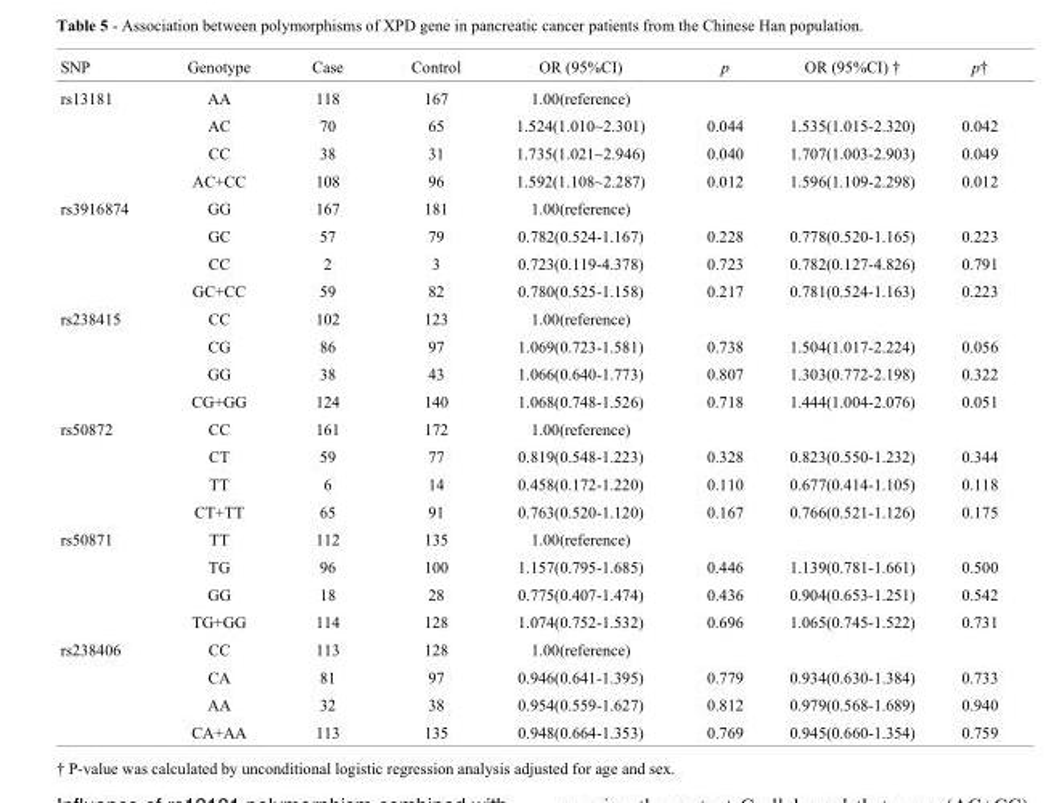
<table><thead><tr><td>SNP</td><td>Genotype</td><td>Case</td><td>Control</td><td>OR (95%CI)</td><td>p</td><td>OR (95%CI) †</td><td>p†</td></tr></thead><tbody><tr><td rowspan="4">rs13181</td><td>AA</td><td>118</td><td>167</td><td>1.00(reference)</td><td></td><td></td><td></td></tr><tr><td>AC</td><td>70</td><td>65</td><td>1.524(1.010~2.301)</td><td>0.044</td><td>1.535(1.015-2.320)</td><td>0.042</td></tr><tr><td>CC</td><td>38</td><td>31</td><td>1.735(1.021~2.946)</td><td>0.040</td><td>1.707(1.003-2.903)</td><td>0.049</td></tr><tr><td>AC+CC</td><td>108</td><td>96</td><td>1.592(1.108~2.287)</td><td>0.012</td><td>1.596(1.109-2.298)</td><td>0.012</td></tr><tr><td rowspan="4">rs3916874</td><td>GG</td><td>167</td><td>181</td><td>1.00(reference)</td><td></td><td></td><td></td></tr><tr><td>GC</td><td>57</td><td>79</td><td>0.782(0.524-1.167)</td><td>0.228</td><td>0.778(0.520-1.165)</td><td>0.223</td></tr><tr><td>CC</td><td>2</td><td>3</td><td>0.723(0.119-4.378)</td><td>0.723</td><td>0.782(0.127-4.826)</td><td>0.791</td></tr><tr><td>GC+CC</td><td>59</td><td>82</td><td>0.780(0.525-1.158)</td><td>0.217</td><td>0.781(0.524-1.163)</td><td>0.223</td></tr><tr><td rowspan="4">rs238415</td><td>CC</td><td>102</td><td>123</td><td>1.00(reference)</td><td></td><td></td><td></td></tr><tr><td>CG</td><td>86</td><td>97</td><td>1.069(0.723-1.581)</td><td>0.738</td><td>1.504(1.017-2.224)</td><td>0.056</td></tr><tr><td>GG</td><td>38</td><td>43</td><td>1.066(0.640-1.773)</td><td>0.807</td><td>1.303(0.772-2.198)</td><td>0.322</td></tr><tr><td>CG+GG</td><td>124</td><td>140</td><td>1.068(0.748-1.526)</td><td>0.718</td><td>1.444(1.004-2.076)</td><td>0.051</td></tr><tr><td rowspan="4">rs50872</td><td>CC</td><td>161</td><td>172</td><td>1.00(reference)</td><td></td><td></td><td></td></tr><tr><td>CT</td><td>59</td><td>77</td><td>0.819(0.548-1.223)</td><td>0.328</td><td>0.823(0.550-1.232)</td><td>0.344</td></tr><tr><td>TT</td><td>6</td><td>14</td><td>0.458(0.172-1.220)</td><td>0.110</td><td>0.677(0.414-1.105)</td><td>0.118</td></tr><tr><td>CT+TT</td><td>65</td><td>91</td><td>0.763(0.520-1.120)</td><td>0.167</td><td>0.766(0.521-1.126)</td><td>0.175</td></tr><tr><td rowspan="4">rs50871</td><td>TT</td><td>112</td><td>135</td><td>1.00(reference)</td><td></td><td></td><td></td></tr><tr><td>TG</td><td>96</td><td>100</td><td>1.157(0.795-1.685)</td><td>0.446</td><td>1.139(0.781-1.661)</td><td>0.500</td></tr><tr><td>GG</td><td>18</td><td>28</td><td>0.775(0.407-1.474)</td><td>0.436</td><td>0.904(0.653-1.251)</td><td>0.542</td></tr><tr><td>TG+GG</td><td>114</td><td>128</td><td>1.074(0.752-1.532)</td><td>0.696</td><td>1.065(0.745-1.522)</td><td>0.731</td></tr><tr><td rowspan="4">rs238406</td><td>CC</td><td>113</td><td>128</td><td>1.00(reference)</td><td></td><td></td><td></td></tr><tr><td>CA</td><td>81</td><td>97</td><td>0.946(0.641-1.395)</td><td>0.779</td><td>0.934(0.630-1.384)</td><td>0.733</td></tr><tr><td>AA</td><td>32</td><td>38</td><td>0.954(0.559-1.627)</td><td>0.812</td><td>0.979(0.568-1.689)</td><td>0.940</td></tr><tr><td>CA+AA</td><td>113</td><td>135</td><td>0.948(0.664-1.353)</td><td>0.769</td><td>0.945(0.660-1.354)</td><td>0.759</td></tr></tbody></table>